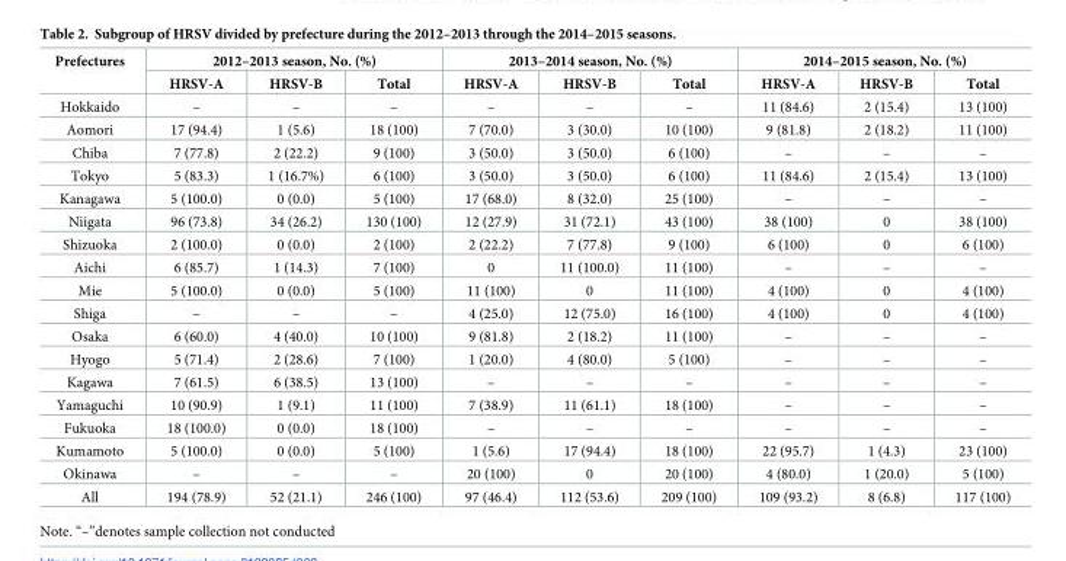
<table><thead><tr><td rowspan="2">Prefectures</td><td colspan="3">2012–2013 season, No. (%)</td><td colspan="3">2013–2014 season, No. (%)</td><td colspan="3">2014–2015 season, No. (%)</td></tr><tr><td>HRSV-A</td><td>HRSV-B</td><td>Total</td><td>HRSV-A</td><td>HRSV-B</td><td>Total</td><td>HRSV-A</td><td>HRSV-B</td><td>Total</td></tr></thead><tbody><tr><td>Hokkaido</td><td>–</td><td>–</td><td>–</td><td>–</td><td>–</td><td>–</td><td>11 (84.6)</td><td>2 (15.4)</td><td>13 (100)</td></tr><tr><td>Aomori</td><td>17 (94.4)</td><td>1 (5.6)</td><td>18 (100)</td><td>7 (70.0)</td><td>3 (30.0)</td><td>10 (100)</td><td>9 (81.8)</td><td>2 (18.2)</td><td>11 (100)</td></tr><tr><td>Chiba</td><td>7 (77.8)</td><td>2 (22.2)</td><td>9 (100)</td><td>3 (50.0)</td><td>3 (50.0)</td><td>6 (100)</td><td>–</td><td>–</td><td>–</td></tr><tr><td>Tokyo</td><td>5 (83.3)</td><td>1 (16.7%)</td><td>6 (100)</td><td>3 (50.0)</td><td>3 (50.0)</td><td>6 (100)</td><td>11 (84.6)</td><td>2 (15.4)</td><td>13 (100)</td></tr><tr><td>Kanagawa</td><td>5 (100.0)</td><td>0 (0.0)</td><td>5 (100)</td><td>17 (68.0)</td><td>8 (32.0)</td><td>25 (100)</td><td>–</td><td>–</td><td>–</td></tr><tr><td>Niigata</td><td>96 (73.8)</td><td>34 (26.2)</td><td>130 (100)</td><td>12 (27.9)</td><td>31 (72.1)</td><td>43 (100)</td><td>38 (100)</td><td>0</td><td>38 (100)</td></tr><tr><td>Shizuoka</td><td>2 (100.0)</td><td>0 (0.0)</td><td>2 (100)</td><td>2 (22.2)</td><td>7 (77.8)</td><td>9 (100)</td><td>6 (100)</td><td>0</td><td>6 (100)</td></tr><tr><td>Aichi</td><td>6 (85.7)</td><td>1 (14.3)</td><td>7 (100)</td><td>0</td><td>11 (100.0)</td><td>11 (100)</td><td>–</td><td>–</td><td>–</td></tr><tr><td>Mie</td><td>5 (100.0)</td><td>0 (0.0)</td><td>5 (100)</td><td>11 (100)</td><td>0</td><td>11 (100)</td><td>4 (100)</td><td>0</td><td>4 (100)</td></tr><tr><td>Shiga</td><td>–</td><td>–</td><td>–</td><td>4 (25.0)</td><td>12 (75.0)</td><td>16 (100)</td><td>4 (100)</td><td>0</td><td>4 (100)</td></tr><tr><td>Osaka</td><td>6 (60.0)</td><td>4 (40.0)</td><td>10 (100)</td><td>9 (81.8)</td><td>2 (18.2)</td><td>11 (100)</td><td>–</td><td>–</td><td>–</td></tr><tr><td>Hyogo</td><td>5 (71.4)</td><td>2 (28.6)</td><td>7 (100)</td><td>1 (20.0)</td><td>4 (80.0)</td><td>5 (100)</td><td>–</td><td>–</td><td>–</td></tr><tr><td>Kagawa</td><td>7 (61.5)</td><td>6 (38.5)</td><td>13 (100)</td><td>–</td><td>–</td><td>–</td><td>–</td><td>–</td><td>–</td></tr><tr><td>Yamaguchi</td><td>10 (90.9)</td><td>1 (9.1)</td><td>11 (100)</td><td>7 (38.9)</td><td>11 (61.1)</td><td>18 (100)</td><td>–</td><td>–</td><td>–</td></tr><tr><td>Fukuoka</td><td>18 (100.0)</td><td>0 (0.0)</td><td>18 (100)</td><td>–</td><td>–</td><td>–</td><td>–</td><td>–</td><td>–</td></tr><tr><td>Kumamoto</td><td>5 (100.0)</td><td>0 (0.0)</td><td>5 (100)</td><td>1 (5.6)</td><td>17 (94.4)</td><td>18 (100)</td><td>22 (95.7)</td><td>1 (4.3)</td><td>23 (100)</td></tr><tr><td>Okinawa</td><td>–</td><td>–</td><td>–</td><td>20 (100)</td><td>0</td><td>20 (100)</td><td>4 (80.0)</td><td>1 (20.0)</td><td>5 (100)</td></tr><tr><td>All</td><td>194 (78.9)</td><td>52 (21.1)</td><td>246 (100)</td><td>97 (46.4)</td><td>112 (53.6)</td><td>209 (100)</td><td>109 (93.2)</td><td>8 (6.8)</td><td>117 (100)</td></tr></tbody></table>